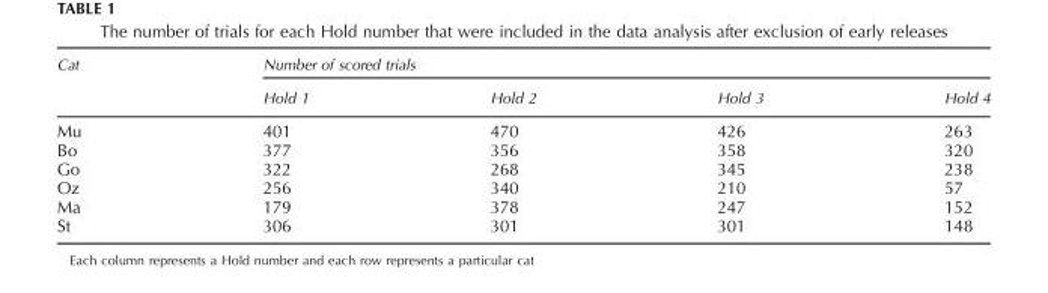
<table><thead><tr><td rowspan="2">Cat</td><td colspan="4">Number of scored trials</td></tr><tr><td>Hold 1</td><td>Hold 2</td><td>Hold 3</td><td>Hold 4</td></tr></thead><tbody><tr><td>Mu</td><td>401</td><td>470</td><td>426</td><td>263</td></tr><tr><td>Bo</td><td>377</td><td>356</td><td>358</td><td>320</td></tr><tr><td>Go</td><td>322</td><td>268</td><td>345</td><td>238</td></tr><tr><td>Oz</td><td>256</td><td>340</td><td>210</td><td>57</td></tr><tr><td>Ma</td><td>179</td><td>378</td><td>247</td><td>152</td></tr><tr><td>St</td><td>306</td><td>301</td><td>301</td><td>148</td></tr></tbody></table>